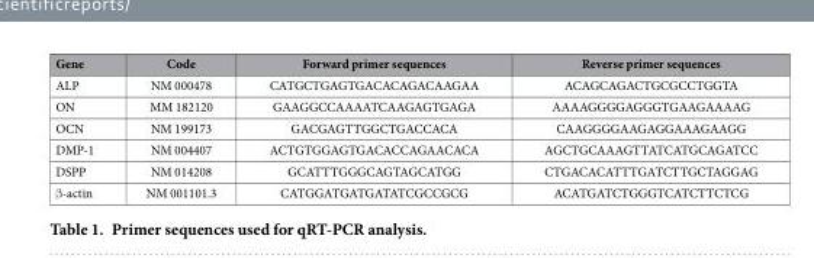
<table><thead><tr><td>Gene</td><td>Code</td><td>Forward primer sequences</td><td>Reverse primer sequences</td></tr></thead><tbody><tr><td>ALP</td><td>NM 000478</td><td>CATGCTGAGTGACACAGACAAGAA</td><td>ACAGCAGACTGCGCCTGGTA</td></tr><tr><td>ON</td><td>MM 182120</td><td>GAAGGCCAAAATCAAGAGTGAGA</td><td>AAAAGGGGAGGGTGAAGAAAAG</td></tr><tr><td>OCN</td><td>NM 199173</td><td>GACGAGTTGGCTGACCACA</td><td>CAAGGGGAAGAGGAAAGAAGG</td></tr><tr><td>DMP-1</td><td>NM 004407</td><td>ACTGTGGAGTGACACCAGAACACA</td><td>AGCTGCAAAGTTATCATGCAGATCC</td></tr><tr><td>DSPP</td><td>NM 014208</td><td>GCATTTGGGCAGTAGCATGG</td><td>CTGACACATTTGATCTTGCTAGGAG</td></tr><tr><td>β -actin</td><td>NM 001101.3</td><td>CATGGATGATGATATCGCCGCG</td><td>ACATGATCTGGGTCATCTTCTCG</td></tr></tbody></table>